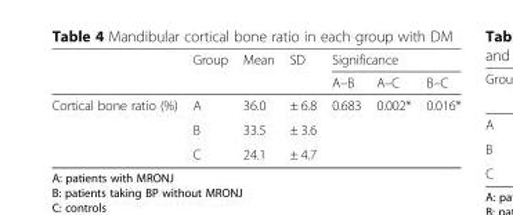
<table><thead><tr><td rowspan="2"></td><td rowspan="2">Group</td><td rowspan="2">Mean</td><td rowspan="2">SD</td><td colspan="3">Significance</td></tr><tr><td>A–B</td><td>A–C</td><td>B–C</td></tr></thead><tbody><tr><td rowspan="3">Cortical bone ratio (%)</td><td>A</td><td>36.0</td><td>± 6.8</td><td rowspan="3">0.683</td><td rowspan="3">0.002*</td><td rowspan="3">0.016*</td></tr><tr><td>B</td><td>33.5</td><td>± 3.6</td></tr><tr><td>C</td><td>24.1</td><td>± 4.7</td></tr></tbody></table>